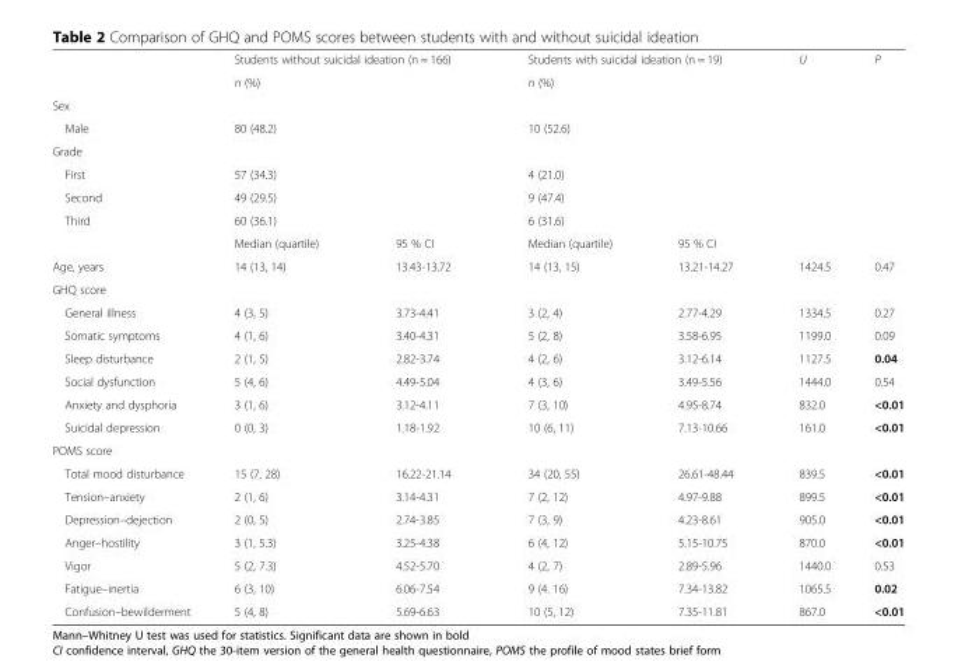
<table><thead><tr><td></td><td colspan="2">Students without suicidal ideation (n = 166)</td><td colspan="2">Students with suicidal ideation (n = 19)</td><td>U</td><td>P</td></tr></thead><tbody><tr><td></td><td colspan="2">n (%)</td><td colspan="2">n (%)</td><td></td><td></td></tr><tr><td colspan="7">Sex</td></tr><tr><td>Male</td><td colspan="2">80 (48.2)</td><td colspan="2">10 (52.6)</td><td></td><td></td></tr><tr><td colspan="7">Grade</td></tr><tr><td>First</td><td colspan="2">57 (34.3)</td><td colspan="2">4 (21.0)</td><td></td><td></td></tr><tr><td>Second</td><td colspan="2">49 (29.5)</td><td colspan="2">9 (47.4)</td><td></td><td></td></tr><tr><td rowspan="2">Third</td><td colspan="2">60 (36.1)</td><td colspan="2">6 (31.6)</td><td></td><td></td></tr><tr><td>Median (quartile)</td><td>95 % CI</td><td>Median (quartile)</td><td>95 % CI</td><td></td><td></td></tr><tr><td>Age, years</td><td>14 (13, 14)</td><td>13.43-13.72</td><td>14 (13, 15)</td><td>13.21-14.27</td><td>1424.5</td><td>0.47</td></tr><tr><td colspan="7">GHQ score</td></tr><tr><td>General illness</td><td>4 (3, 5)</td><td>3.73-4.41</td><td>3 (2, 4)</td><td>2.77-4.29</td><td>1334.5</td><td>0.27</td></tr><tr><td>Somatic symptoms</td><td>4 (1, 6)</td><td>3.40-4.31</td><td>5 (2, 8)</td><td>3.58-6.95</td><td>1199.0</td><td>0.09</td></tr><tr><td>Sleep disturbance</td><td>2 (1, 5)</td><td>2.82-3.74</td><td>4 (2, 6)</td><td>3.12-6.14</td><td>1127.5</td><td>0.04</td></tr><tr><td>Social dysfunction</td><td>5 (4, 6)</td><td>4.49-5.04</td><td>4 (3, 6)</td><td>3.49-5.56</td><td>1444.0</td><td>0.54</td></tr><tr><td>Anxiety and dysphoria</td><td>3 (1, 6)</td><td>3.12-4.11</td><td>7 (3, 10)</td><td>4.95-8.74</td><td>832.0</td><td>&lt;0.01</td></tr><tr><td>Suicidal depression</td><td>0 (0, 3)</td><td>1.18-1.92</td><td>10 (6, 11)</td><td>7.13-10.66</td><td>161.0</td><td>&lt;0.01</td></tr><tr><td colspan="7">POMS score</td></tr><tr><td>Total mood disturbance</td><td>15 (7, 28)</td><td>16.22-21.14</td><td>34 (20, 55)</td><td>26.61-48.44</td><td>839.5</td><td>&lt;0.01</td></tr><tr><td>Tension–anxiety</td><td>2 (1, 6)</td><td>3.14-4.31</td><td>7 (2, 12)</td><td>4.97-9.88</td><td>899.5</td><td>&lt;0.01</td></tr><tr><td>Depression–dejection</td><td>2 (0, 5)</td><td>2.74-3.85</td><td>7 (3, 9)</td><td>4.23-8.61</td><td>905.0</td><td>&lt;0.01</td></tr><tr><td>Anger–hostility</td><td>3 (1, 5.3)</td><td>3.25-4.38</td><td>6 (4, 12)</td><td>5.15-10.75</td><td>870.0</td><td>&lt;0.01</td></tr><tr><td>Vigor</td><td>5 (2, 7.3)</td><td>4.52-5.70</td><td>4 (2, 7)</td><td>2.89-5.96</td><td>1440.0</td><td>0.53</td></tr><tr><td>Fatigue–inertia</td><td>6 (3, 10)</td><td>6.06-7.54</td><td>9 (4. 16)</td><td>7.34-13.82</td><td>1065.5</td><td>0.02</td></tr><tr><td>Confusion–bewilderment</td><td>5 (4, 8)</td><td>5.69-6.63</td><td>10 (5, 12)</td><td>7.35-11.81</td><td>867.0</td><td>&lt;0.01</td></tr></tbody></table>